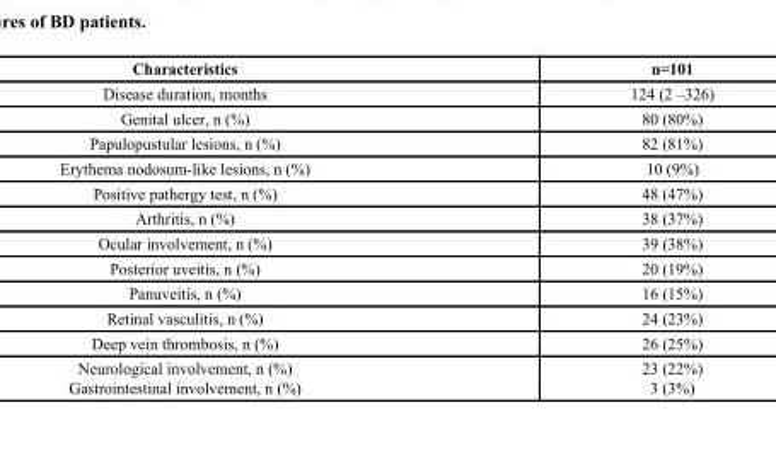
<table><thead><tr><td>Characteristics</td><td>n=101</td></tr></thead><tbody><tr><td>Disease duration, months</td><td>124 (2 –326)</td></tr><tr><td>Genital ulcer, n (%)</td><td>80 (80%)</td></tr><tr><td>Papulopustular lesions, n (%)</td><td>82 (81%)</td></tr><tr><td>Erythema nodosum-like lesions, n (%)</td><td>10 (9%)</td></tr><tr><td>Positive pathergy test, n (%)</td><td>48 (47%)</td></tr><tr><td>Arthritis, n (%)</td><td>38 (37%)</td></tr><tr><td>Ocular involvement, n (%)</td><td>39 (38%)</td></tr><tr><td>Posterior uveitis, n (%)</td><td>20 (19%)</td></tr><tr><td>Panuveitis, n (%)</td><td>16 (15%)</td></tr><tr><td>Retinal vasculitis, n (%)</td><td>24 (23%)</td></tr><tr><td>Deep vein thrombosis, n (%)</td><td>26 (25%)</td></tr><tr><td>Neurological involvement, n (%) Gastrointestinal involvement, n (%)</td><td>23 (22%) 3 (3%)</td></tr></tbody></table>